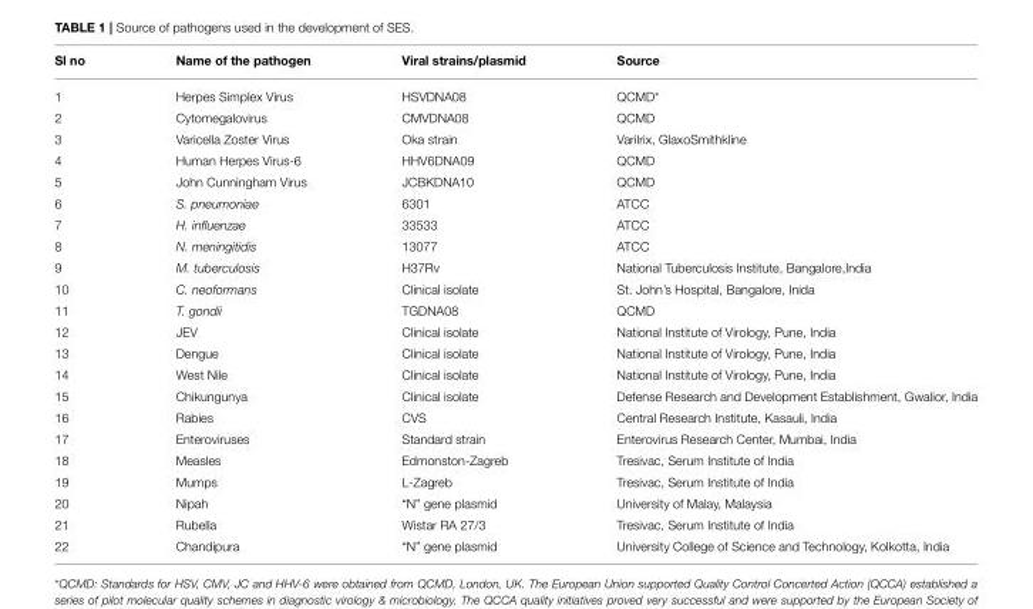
<table><thead><tr><td>Sl no</td><td>Name of the pathogen</td><td>Viral strains/plasmid</td><td>Source</td></tr></thead><tbody><tr><td>1</td><td>Herpes Simplex Virus</td><td>HSVDNA08</td><td>QCMD*</td></tr><tr><td>2</td><td>Cytomegalovirus</td><td>CMVDNA08</td><td>QCMD</td></tr><tr><td>3</td><td>Varicella Zoster Virus</td><td>Oka strain</td><td>Varilrix, GlaxoSmithkline</td></tr><tr><td>4</td><td>Human Herpes Virus-6</td><td>HHV6DNA09</td><td>QCMD</td></tr><tr><td>5</td><td>John Cunningham Virus</td><td>JCBKDNA10</td><td>QCMD</td></tr><tr><td>6</td><td>S. pneumoniae</td><td>6301</td><td>ATCC</td></tr><tr><td>7</td><td>H. influenzae</td><td>33533</td><td>ATCC</td></tr><tr><td>8</td><td>N. meningitidis</td><td>13077</td><td>ATCC</td></tr><tr><td>9</td><td>M. tuberculosis</td><td>H37Rv</td><td>National Tuberculosis Institute, Bangalore,India</td></tr><tr><td>10</td><td>C. neoformans</td><td>Clinical isolate</td><td>St. John’s Hospital, Bangalore, Inida</td></tr><tr><td>11</td><td>T. gondii</td><td>TGDNA08</td><td>QCMD</td></tr><tr><td>12</td><td>JEV</td><td>Clinical isolate</td><td>National Institute of Virology, Pune, India</td></tr><tr><td>13</td><td>Dengue</td><td>Clinical isolate</td><td>National Institute of Virology, Pune, India</td></tr><tr><td>14</td><td>West Nile</td><td>Clinical isolate</td><td>National Institute of Virology, Pune, India</td></tr><tr><td>15</td><td>Chikungunya</td><td>Clinical isolate</td><td>Defense Research and Development Establishment, Gwalior, India</td></tr><tr><td>16</td><td>Rabies</td><td>CVS</td><td>Central Research Institute, Kasauli, India</td></tr><tr><td>17</td><td>Enteroviruses</td><td>Standard strain</td><td>Enterovirus Research Center, Mumbai, India</td></tr><tr><td>18</td><td>Measles</td><td>Edmonston-Zagreb</td><td>Tresivac, Serum Institute of India</td></tr><tr><td>19</td><td>Mumps</td><td>L-Zagreb</td><td>Tresivac, Serum Institute of India</td></tr><tr><td>20</td><td>Nipah</td><td>“N” gene plasmid</td><td>University of Malay, Malaysia</td></tr><tr><td>21</td><td>Rubella</td><td>Wistar RA 27/3</td><td>Tresivac, Serum Institute of India</td></tr><tr><td>22</td><td>Chandipura</td><td>“N” gene plasmid</td><td>University College of Science and Technology, Kolkotta, India</td></tr></tbody></table>